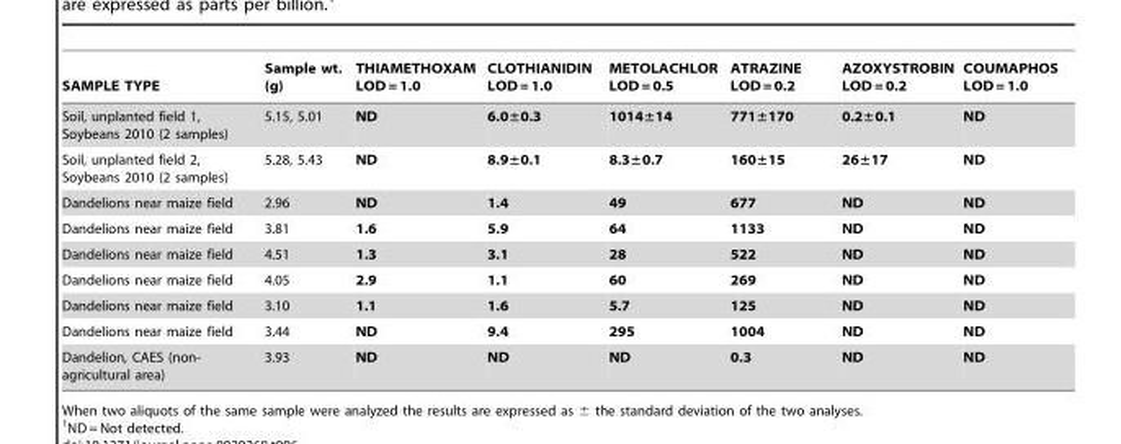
<table><thead><tr><td>SAMPLE TYPE</td><td>Sample wt. (g)</td><td>THIAMETHOXAM LOD = 1.0</td><td>CLOTHIANIDIN LOD = 1.0</td><td>METOLACHLOR LOD = 0.5</td><td>ATRAZINE LOD = 0.2</td><td>AZOXYSTROBIN LOD = 0.2</td><td>COUMAPHOS LOD = 1.0</td></tr></thead><tbody><tr><td>Soil, unplanted field 1, Soybeans 2010 (2 samples)</td><td>5.15, 5.01</td><td>ND</td><td>6.0±0.3</td><td>1014±14</td><td>771±170</td><td>0.2±0.1</td><td>ND</td></tr><tr><td>Soil, unplanted field 2, Soybeans 2010 (2 samples)</td><td>5.28, 5.43</td><td>ND</td><td>8.9±0.1</td><td>8.3±0.7</td><td>160±15</td><td>26±17</td><td>ND</td></tr><tr><td>Dandelions near maize field</td><td>2.96</td><td>ND</td><td>1.4</td><td>49</td><td>677</td><td>ND</td><td>ND</td></tr><tr><td>Dandelions near maize field</td><td>3.81</td><td>1.6</td><td>5.9</td><td>64</td><td>1133</td><td>ND</td><td>ND</td></tr><tr><td>Dandelions near maize field</td><td>4.51</td><td>1.3</td><td>3.1</td><td>28</td><td>522</td><td>ND</td><td>ND</td></tr><tr><td>Dandelions near maize field</td><td>4.05</td><td>2.9</td><td>1.1</td><td>60</td><td>269</td><td>ND</td><td>ND</td></tr><tr><td>Dandelions near maize field</td><td>3.10</td><td>1.1</td><td>1.6</td><td>5.7</td><td>125</td><td>ND</td><td>ND</td></tr><tr><td>Dandelions near maize field</td><td>3.44</td><td>ND</td><td>9.4</td><td>295</td><td>1004</td><td>ND</td><td>ND</td></tr><tr><td>Dandelion, CAES (non- agricultural area)</td><td>3.93</td><td>ND</td><td>ND</td><td>ND</td><td>0.3</td><td>ND</td><td>ND</td></tr></tbody></table>